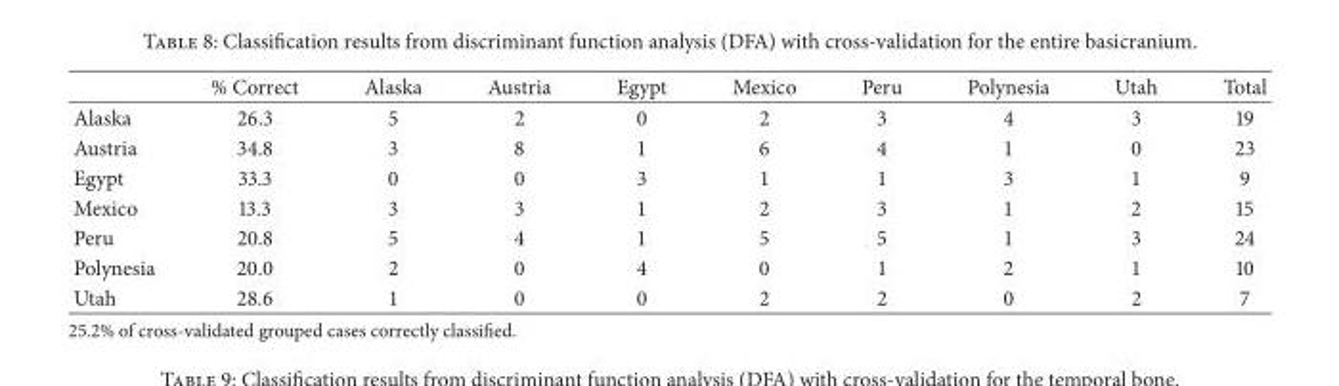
<table><thead><tr><td></td><td>% Correct</td><td>Alaska</td><td>Austria</td><td>Egypt</td><td>Mexico</td><td>Peru</td><td>Polynesia</td><td>Utah</td><td>Total</td></tr></thead><tbody><tr><td>Alaska</td><td>26.3</td><td>5</td><td>2</td><td>0</td><td>2</td><td>3</td><td>4</td><td>3</td><td>19</td></tr><tr><td>Austria</td><td>34.8</td><td>3</td><td>8</td><td>1</td><td>6</td><td>4</td><td>1</td><td>0</td><td>23</td></tr><tr><td>Egypt</td><td>33.3</td><td>0</td><td>0</td><td>3</td><td>1</td><td>1</td><td>3</td><td>1</td><td>9</td></tr><tr><td>Mexico</td><td>13.3</td><td>3</td><td>3</td><td>1</td><td>2</td><td>3</td><td>1</td><td>2</td><td>15</td></tr><tr><td>Peru</td><td>20.8</td><td>5</td><td>4</td><td>1</td><td>5</td><td>5</td><td>1</td><td>3</td><td>24</td></tr><tr><td>Polynesia</td><td>20.0</td><td>2</td><td>0</td><td>4</td><td>0</td><td>1</td><td>2</td><td>1</td><td>10</td></tr><tr><td>Utah</td><td>28.6</td><td>1</td><td>0</td><td>0</td><td>2</td><td>2</td><td>0</td><td>2</td><td>7</td></tr></tbody></table>